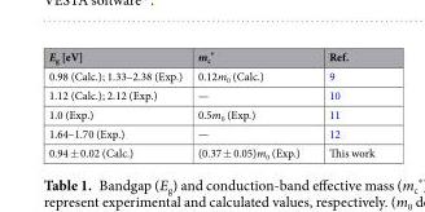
<table><thead><tr><td>E<sub>g</sub> [eV]</td><td>m<sub>c</sub> *</td><td>Ref.</td></tr></thead><tbody><tr><td>0.98 (Calc.); 1.33–2.38 (Exp.)</td><td>0.12m<sub>0</sub> (Calc.)</td><td>9</td></tr><tr><td>1.12 (Calc.); 2.12 (Exp.)</td><td>—</td><td>10</td></tr><tr><td>1.0 (Exp.)</td><td>0.5m<sub>0</sub> (Exp.)</td><td>11</td></tr><tr><td>1.64–1.70 (Exp.)</td><td>—</td><td>12</td></tr><tr><td>0.94 ± 0.02 (Calc.)</td><td>(0.37 ± 0.05)m<sub>0</sub> (Exp.)</td><td>This work</td></tr></tbody></table>